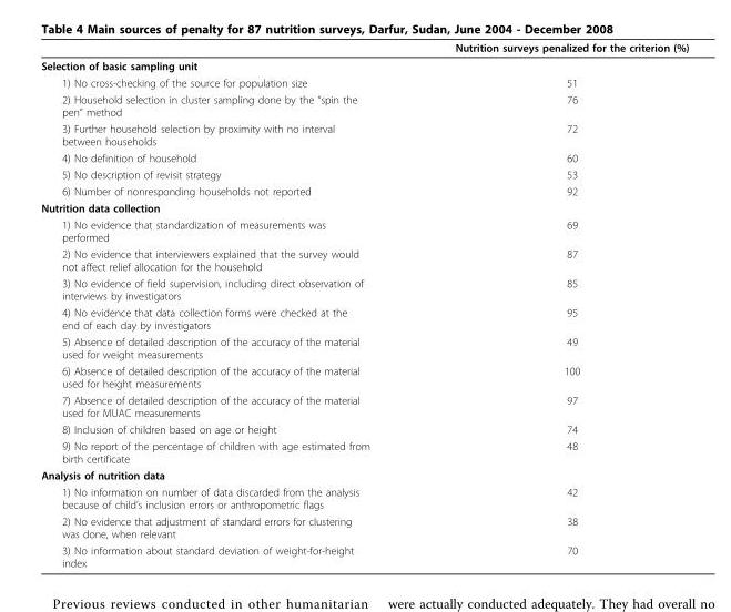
<table><thead><tr><td></td><td>Nutrition surveys penalized for the criterion (%)</td></tr></thead><tbody><tr><td colspan="2">Selection of basic sampling unit</td></tr><tr><td>1) No cross-checking of the source for population size</td><td>51</td></tr><tr><td>2) Household selection in cluster sampling done by the “spin the pen” method</td><td>76</td></tr><tr><td>3) Further household selection by proximity with no interval between households</td><td>72</td></tr><tr><td>4) No definition of household</td><td>60</td></tr><tr><td>5) No description of revisit strategy</td><td>53</td></tr><tr><td>6) Number of nonresponding households not reported</td><td>92</td></tr><tr><td colspan="2">Nutrition data collection</td></tr><tr><td>1) No evidence that standardization of measurements was performed</td><td>69</td></tr><tr><td>2) No evidence that interviewers explained that the survey would not affect relief allocation for the household</td><td>87</td></tr><tr><td>3) No evidence of field supervision, including direct observation of interviews by investigators</td><td>85</td></tr><tr><td>4) No evidence that data collection forms were checked at the end of each day by investigators</td><td>95</td></tr><tr><td>5) Absence of detailed description of the accuracy of the material used for weight measurements</td><td>49</td></tr><tr><td>6) Absence of detailed description of the accuracy of the material used for height measurements</td><td>100</td></tr><tr><td>7) Absence of detailed description of the accuracy of the material used for MUAC measurements</td><td>97</td></tr><tr><td>8) Inclusion of children based on age or height</td><td>74</td></tr><tr><td>9) No report of the percentage of children with age estimated from birth certificate</td><td>48</td></tr><tr><td colspan="2">Analysis of nutrition data</td></tr><tr><td>1) No information on number of data discarded from the analysis because of child’s inclusion errors or anthropometric flags</td><td>42</td></tr><tr><td>2) No evidence that adjustment of standard errors for clustering was done, when relevant</td><td>38</td></tr><tr><td>3) No information about standard deviation of weight-for-height index</td><td>70</td></tr></tbody></table>